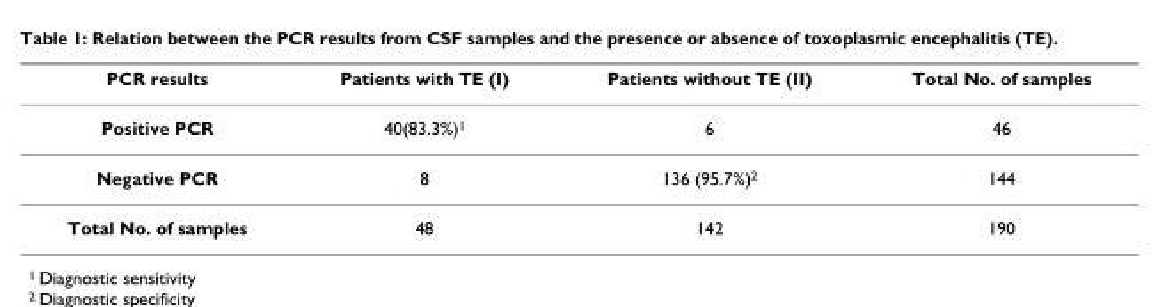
<table><thead><tr><td>PCR results</td><td>Patients with TE (I)</td><td>Patients without TE (II)</td><td>Total No. of samples</td></tr></thead><tbody><tr><td>Positive PCR</td><td>40(83.3%)<sup>1</sup></td><td>6</td><td>46</td></tr><tr><td>Negative PCR</td><td>8</td><td>136 (95.7%)<sup>2</sup></td><td>144</td></tr><tr><td>Total No. of samples</td><td>48</td><td>142</td><td>190</td></tr></tbody></table>